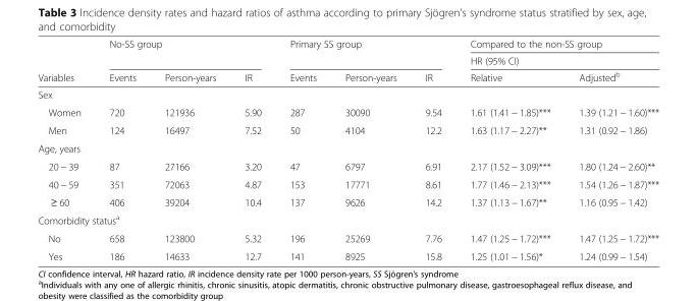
<table><thead><tr><td rowspan="3">Variables</td><td rowspan="2" colspan="3">No-SS group</td><td rowspan="2" colspan="3">Primary SS group</td><td rowspan="2" colspan="2">Compared to the non-SS group HR (95% CI)</td></tr><tr></tr><tr><td>Events</td><td>Person-years</td><td>IR</td><td>Events</td><td>Person-years</td><td>IR</td><td>Relative</td><td>Adjusted<sup>b</sup></td></tr></thead><tbody><tr><td colspan="9">Sex</td></tr><tr><td>Women</td><td>720</td><td>121936</td><td>5.90</td><td>287</td><td>30090</td><td>9.54</td><td>1.61 (1.41 − 1.85)***</td><td>1.39 (1.21 − 1.60)***</td></tr><tr><td>Men</td><td>124</td><td>16497</td><td>7.52</td><td>50</td><td>4104</td><td>12.2</td><td>1.63 (1.17 − 2.27)**</td><td>1.31 (0.92 − 1.86)</td></tr><tr><td colspan="9">Age, years</td></tr><tr><td>20 − 39</td><td>87</td><td>27166</td><td>3.20</td><td>47</td><td>6797</td><td>6.91</td><td>2.17 (1.52 − 3.09)***</td><td>1.80 (1.24 − 2.60)**</td></tr><tr><td>40 − 59</td><td>351</td><td>72063</td><td>4.87</td><td>153</td><td>17771</td><td>8.61</td><td>1.77 (1.46 − 2.13)***</td><td>1.54 (1.26 − 1.87)***</td></tr><tr><td>≥ 60</td><td>406</td><td>39204</td><td>10.4</td><td>137</td><td>9626</td><td>14.2</td><td>1.37 (1.13 − 1.67)**</td><td>1.16 (0.95 − 1.42)</td></tr><tr><td colspan="9">Comorbidity status<sup>a</sup></td></tr><tr><td>No</td><td>658</td><td>123800</td><td>5.32</td><td>196</td><td>25269</td><td>7.76</td><td>1.47 (1.25 − 1.72)***</td><td>1.47 (1.25 − 1.72)***</td></tr><tr><td>Yes</td><td>186</td><td>14633</td><td>12.7</td><td>141</td><td>8925</td><td>15.8</td><td>1.25 (1.01 − 1.56)*</td><td>1.24 (0.99 − 1.54)</td></tr></tbody></table>